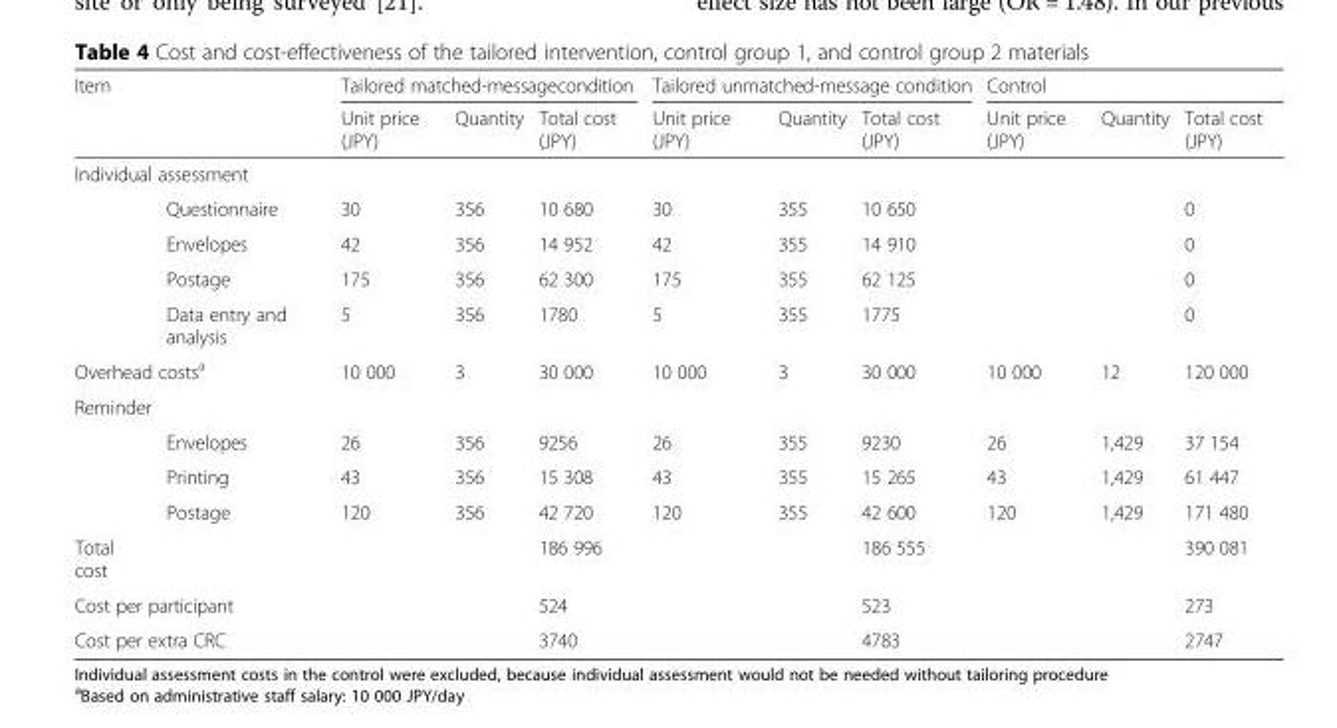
<table><thead><tr><td rowspan="3" colspan="2">Item Individual assessment</td><td colspan="3">Tailored matched-messagecondition</td><td colspan="3">Tailored unmatched-message condition</td><td colspan="3">Control</td></tr><tr><td rowspan="3">Unit price (JPY) 30</td><td rowspan="3">Quantity 356</td><td rowspan="3">Total cost (JPY) 10 680</td><td rowspan="3">Unit price (JPY) 30</td><td rowspan="3">Quantity 355</td><td rowspan="3">Total cost (JPY) 10 650</td><td rowspan="3">Unit price (JPY)</td><td rowspan="3">Quantity</td><td rowspan="3">Total cost (JPY) 0</td></tr><tr></tr><tr><td></td><td>Questionnaire</td></tr></thead><tbody><tr><td></td><td>Envelopes</td><td>42</td><td>356</td><td>14 952</td><td>42</td><td>355</td><td>14 910</td><td></td><td></td><td>0</td></tr><tr><td></td><td>Postage</td><td>175</td><td>356</td><td>62 300</td><td>175</td><td>355</td><td>62 125</td><td></td><td></td><td>0</td></tr><tr><td></td><td>Data entry and analysis</td><td>5</td><td>356</td><td>1780</td><td>5</td><td>355</td><td>1775</td><td></td><td></td><td>0</td></tr><tr><td colspan="2">Overhead costs<sup>a</sup></td><td>10 000</td><td>3</td><td>30 000</td><td>10 000</td><td>3</td><td>30 000</td><td>10 000</td><td>12</td><td>120 000</td></tr><tr><td colspan="11">Reminder</td></tr><tr><td></td><td>Envelopes</td><td>26</td><td>356</td><td>9256</td><td>26</td><td>355</td><td>9230</td><td>26</td><td>1,429</td><td>37 154</td></tr><tr><td></td><td>Printing</td><td>43</td><td>356</td><td>15 308</td><td>43</td><td>355</td><td>15 265</td><td>43</td><td>1,429</td><td>61 447</td></tr><tr><td></td><td>Postage</td><td>120</td><td>356</td><td>42 720</td><td>120</td><td>355</td><td>42 600</td><td>120</td><td>1,429</td><td>171 480</td></tr><tr><td>Total cost</td><td></td><td></td><td></td><td>186 996</td><td></td><td></td><td>186 555</td><td></td><td></td><td>390 081</td></tr><tr><td colspan="2">Cost per participant</td><td></td><td></td><td>524</td><td></td><td></td><td>523</td><td></td><td></td><td>273</td></tr><tr><td colspan="2">Cost per extra CRC</td><td></td><td></td><td>3740</td><td></td><td></td><td>4783</td><td></td><td></td><td>2747</td></tr></tbody></table>